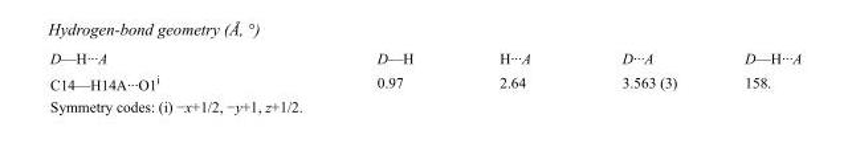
<table><tbody><tr><td>D—H···A</td><td>D—H</td><td>H···A</td><td>D···A</td><td>D—H···A</td></tr><tr><td>C14—H14A···O1<sup>i</sup></td><td>0.97</td><td>2.64</td><td>3.563 (3)</td><td>158.</td></tr></tbody></table>